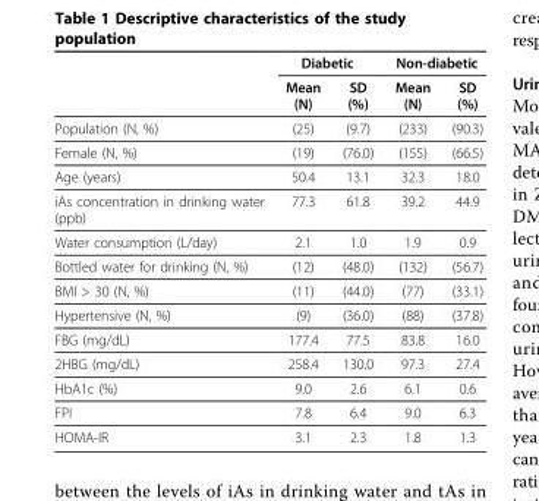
<table><thead><tr><td rowspan="2"></td><td colspan="2">Diabetic</td><td colspan="2">Non-diabetic</td></tr><tr><td>Mean (N)</td><td>SD (%)</td><td>Mean (N)</td><td>SD (%)</td></tr></thead><tbody><tr><td>Population (N, %)</td><td>(25)</td><td>(9.7)</td><td>(233)</td><td>(90.3)</td></tr><tr><td>Female (N, %)</td><td>(19)</td><td>(76.0)</td><td>(155)</td><td>(66.5)</td></tr><tr><td>Age (years)</td><td>50.4</td><td>13.1</td><td>32.3</td><td>18.0</td></tr><tr><td>iAs concentration in drinking water (ppb)</td><td>77.3</td><td>61.8</td><td>39.2</td><td>44.9</td></tr><tr><td>Water consumption (L/day)</td><td>2.1</td><td>1.0</td><td>1.9</td><td>0.9</td></tr><tr><td>Bottled water for drinking (N, %)</td><td>(12)</td><td>(48.0)</td><td>(132)</td><td>(56.7)</td></tr><tr><td>BMI &gt; 30 (N, %)</td><td>(11)</td><td>(44.0)</td><td>(77)</td><td>(33.1)</td></tr><tr><td>Hypertensive (N, %)</td><td>(9)</td><td>(36.0)</td><td>(88)</td><td>(37.8)</td></tr><tr><td>FBG (mg/dL)</td><td>177.4</td><td>77.5</td><td>83.8</td><td>16.0</td></tr><tr><td>2HBG (mg/dL)</td><td>258.4</td><td>130.0</td><td>97.3</td><td>27.4</td></tr><tr><td>HbA1c (%)</td><td>9.0</td><td>2.6</td><td>6.1</td><td>0.6</td></tr><tr><td>FPI</td><td>7.8</td><td>6.4</td><td>9.0</td><td>6.3</td></tr><tr><td>HOMA-IR</td><td>3.1</td><td>2.3</td><td>1.8</td><td>1.3</td></tr></tbody></table>